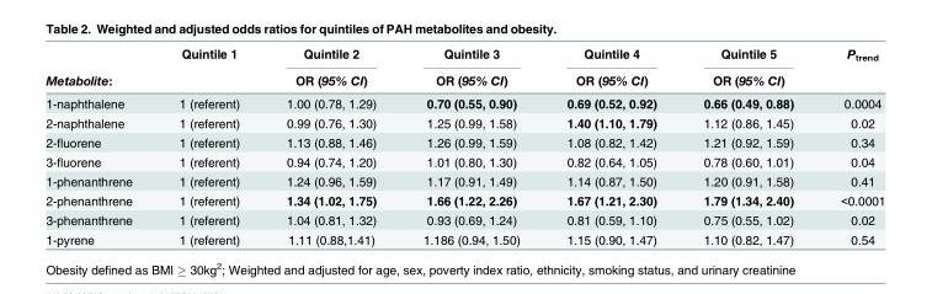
<table><thead><tr><td rowspan="2">Metabolite:</td><td rowspan="2">Quintile 1</td><td rowspan="2">Quintile 2 OR (95% CI)</td><td rowspan="2">Quintile 3 OR (95% CI)</td><td rowspan="2">Quintile 4 OR (95% CI)</td><td rowspan="2">Quintile 5 OR (95% CI)</td><td rowspan="2">P<sub>trend</sub></td></tr><tr></tr></thead><tbody><tr><td>1-naphthalene</td><td>1 (referent)</td><td>1.00 (0.78, 1.29)</td><td>0.70 (0.55, 0.90)</td><td>0.69 (0.52, 0.92)</td><td>0.66 (0.49, 0.88)</td><td>0.0004</td></tr><tr><td>2-naphthalene</td><td>1 (referent)</td><td>0.99 (0.76, 1.30)</td><td>1.25 (0.99, 1.58)</td><td>1.40 (1.10, 1.79)</td><td>1.12 (0.86, 1.45)</td><td>0.02</td></tr><tr><td>2-fluorene</td><td>1 (referent)</td><td>1.13 (0.88, 1.46)</td><td>1.26 (0.99, 1.59)</td><td>1.08 (0.82, 1.42)</td><td>1.21 (0.92, 1.59)</td><td>0.34</td></tr><tr><td>3-fluorene</td><td>1 (referent)</td><td>0.94 (0.74, 1.20)</td><td>1.01 (0.80, 1.30)</td><td>0.82 (0.64, 1.05)</td><td>0.78 (0.60, 1.01)</td><td>0.04</td></tr><tr><td>1-phenanthrene</td><td>1 (referent)</td><td>1.24 (0.96, 1.59)</td><td>1.17 (0.91, 1.49)</td><td>1.14 (0.87, 1.50)</td><td>1.20 (0.91, 1.58)</td><td>0.41</td></tr><tr><td>2-phenanthrene</td><td>1 (referent)</td><td>1.34 (1.02, 1.75)</td><td>1.66 (1.22, 2.26)</td><td>1.67 (1.21, 2.30)</td><td>1.79 (1.34, 2.40)</td><td>&lt;0.0001</td></tr><tr><td>3-phenanthrene</td><td>1 (referent)</td><td>1.04 (0.81, 1.32)</td><td>0.93 (0.69, 1.24)</td><td>0.81 (0.59, 1.10)</td><td>0.75 (0.55, 1.02)</td><td>0.02</td></tr><tr><td>1-pyrene</td><td>1 (referent)</td><td>1.11 (0.88,1.41)</td><td>1.186 (0.94, 1.50)</td><td>1.15 (0.90, 1.47)</td><td>1.10 (0.82, 1.47)</td><td>0.54</td></tr></tbody></table>